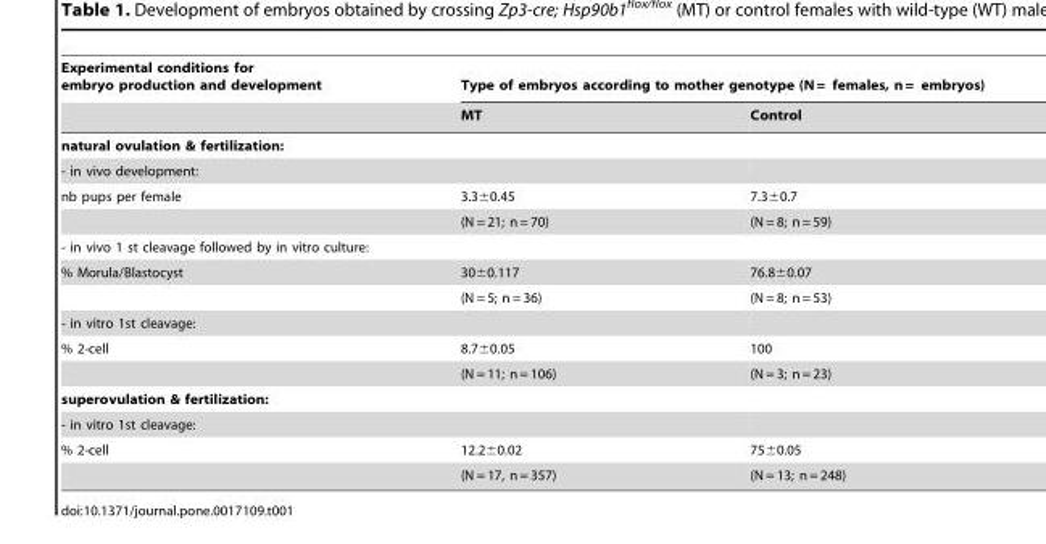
<table><thead><tr><td rowspan="2">Experimental conditions for embryo production and development</td><td colspan="2">Type of embryos according to mother genotype (N = females, n = embryos)</td></tr><tr><td>MT</td><td>Control</td></tr></thead><tbody><tr><td colspan="3">natural ovulation &amp; fertilization:</td></tr><tr><td colspan="3">- in vivo development:</td></tr><tr><td rowspan="2">nb pups per female</td><td>3.3±0.45</td><td>7.3±0.7</td></tr><tr><td>(N = 21; n = 70)</td><td>(N = 8; n = 59)</td></tr><tr><td colspan="3">- in vivo 1 st cleavage followed by in vitro culture:</td></tr><tr><td rowspan="2">% Morula/Blastocyst</td><td>30±0.117</td><td>76.8±0.07</td></tr><tr><td>(N = 5; n = 36)</td><td>(N = 8; n = 53)</td></tr><tr><td colspan="3">- in vitro 1st cleavage:</td></tr><tr><td rowspan="2">% 2-cell</td><td>8.7±0.05</td><td>100</td></tr><tr><td>(N = 11; n = 106)</td><td>(N = 3; n = 23)</td></tr><tr><td colspan="3">superovulation &amp; fertilization:</td></tr><tr><td colspan="3">- in vitro 1st cleavage:</td></tr><tr><td rowspan="2">% 2-cell</td><td>12.2±0.02</td><td>75±0.05</td></tr><tr><td>(N = 17, n = 357)</td><td>(N = 13; n = 248)</td></tr></tbody></table>